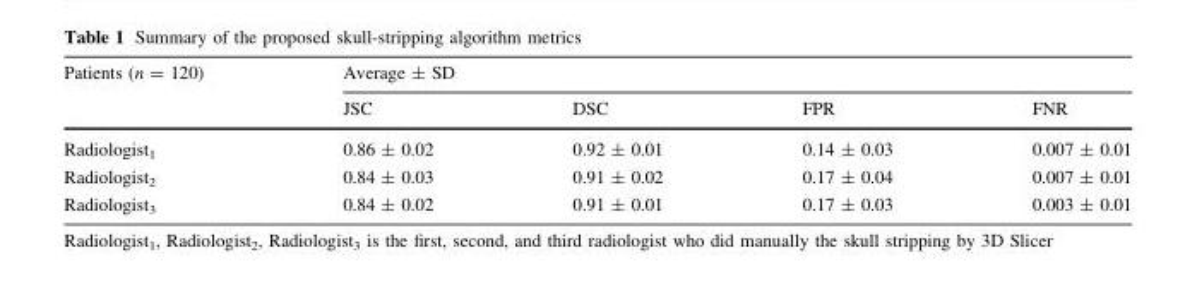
<table><thead><tr><td rowspan="2">Patients (n = 120)</td><td colspan="4">Average ± SD</td></tr><tr><td>JSC</td><td>DSC</td><td>FPR</td><td>FNR</td></tr></thead><tbody><tr><td>Radiologist<sub>1</sub></td><td>0.86 ± 0.02</td><td>0.92 ± 0.01</td><td>0.14 ± 0.03</td><td>0.007 ± 0.01</td></tr><tr><td>Radiologist<sub>2</sub></td><td>0.84 ± 0.03</td><td>0.91 ± 0.02</td><td>0.17 ± 0.04</td><td>0.007 ± 0.01</td></tr><tr><td>Radiologist<sub>3</sub></td><td>0.84 ± 0.02</td><td>0.91 ± 0.01</td><td>0.17 ± 0.03</td><td>0.003 ± 0.01</td></tr></tbody></table>